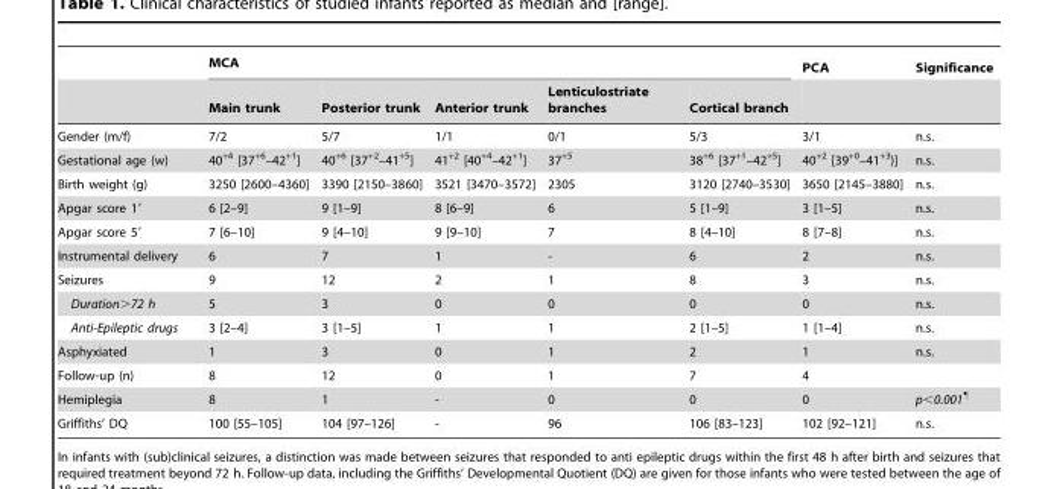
<table><thead><tr><td rowspan="2"></td><td colspan="5">MCA</td><td rowspan="2">PCA</td><td rowspan="2">Significance</td></tr><tr><td>Main trunk</td><td>Posterior trunk</td><td>Anterior trunk</td><td>Lenticulostriate branches</td><td>Cortical branch</td></tr></thead><tbody><tr><td>Gender (m/f)</td><td>7/2</td><td>5/7</td><td>1/1</td><td>0/1</td><td>5/3</td><td>3/1</td><td>n.s.</td></tr><tr><td>Gestational age (w)</td><td>40<sup>+4</sup> [37<sup>+6</sup>–42<sup>+1</sup>]</td><td>40<sup>+6</sup> [37<sup>+2</sup>–41<sup>+5</sup>]</td><td>41<sup>+2</sup> [40<sup>+4</sup>–42<sup>+1</sup>]</td><td>37<sup>+5</sup></td><td>38<sup>+6</sup> [37<sup>+1</sup>–42<sup>+5</sup>]</td><td>40<sup>+2</sup> [39<sup>+0</sup>–41<sup>+3</sup>)]</td><td>n.s.</td></tr><tr><td>Birth weight (g)</td><td>3250 [2600–4360]</td><td>3390 [2150–3860]</td><td>3521 [3470–3572]</td><td>2305</td><td>3120 [2740–3530]</td><td>3650 [2145–3880]</td><td>n.s.</td></tr><tr><td>Apgar score 1′</td><td>6 [2–9]</td><td>9 [1–9]</td><td>8 [6–9]</td><td>6</td><td>5 [1–9]</td><td>3 [1–5]</td><td>n.s.</td></tr><tr><td>Apgar score 5′</td><td>7 [6–10]</td><td>9 [4–10]</td><td>9 [9–10]</td><td>7</td><td>8 [4–10]</td><td>8 [7–8]</td><td>n.s.</td></tr><tr><td>Instrumental delivery</td><td>6</td><td>7</td><td>1</td><td>-</td><td>6</td><td>2</td><td>n.s.</td></tr><tr><td>Seizures</td><td>9</td><td>12</td><td>2</td><td>1</td><td>8</td><td>3</td><td>n.s.</td></tr><tr><td>Duration&gt;72 h</td><td>5</td><td>3</td><td>0</td><td>0</td><td>0</td><td>0</td><td>n.s.</td></tr><tr><td>Anti-Epileptic drugs</td><td>3 [2–4]</td><td>3 [1–5]</td><td>1</td><td>1</td><td>2 [1–5]</td><td>1 [1–4]</td><td>n.s.</td></tr><tr><td>Asphyxiated</td><td>1</td><td>3</td><td>0</td><td>1</td><td>2</td><td>1</td><td>n.s.</td></tr><tr><td>Follow-up (n)</td><td>8</td><td>12</td><td>0</td><td>1</td><td>7</td><td>4</td><td></td></tr><tr><td>Hemiplegia</td><td>8</td><td>1</td><td>-</td><td>0</td><td>0</td><td>0</td><td>p&lt;0.001¶</td></tr><tr><td>Griffiths’ DQ</td><td>100 [55–105]</td><td>104 [97–126]</td><td>-</td><td>96</td><td>106 [83–123]</td><td>102 [92–121]</td><td>n.s.</td></tr></tbody></table>